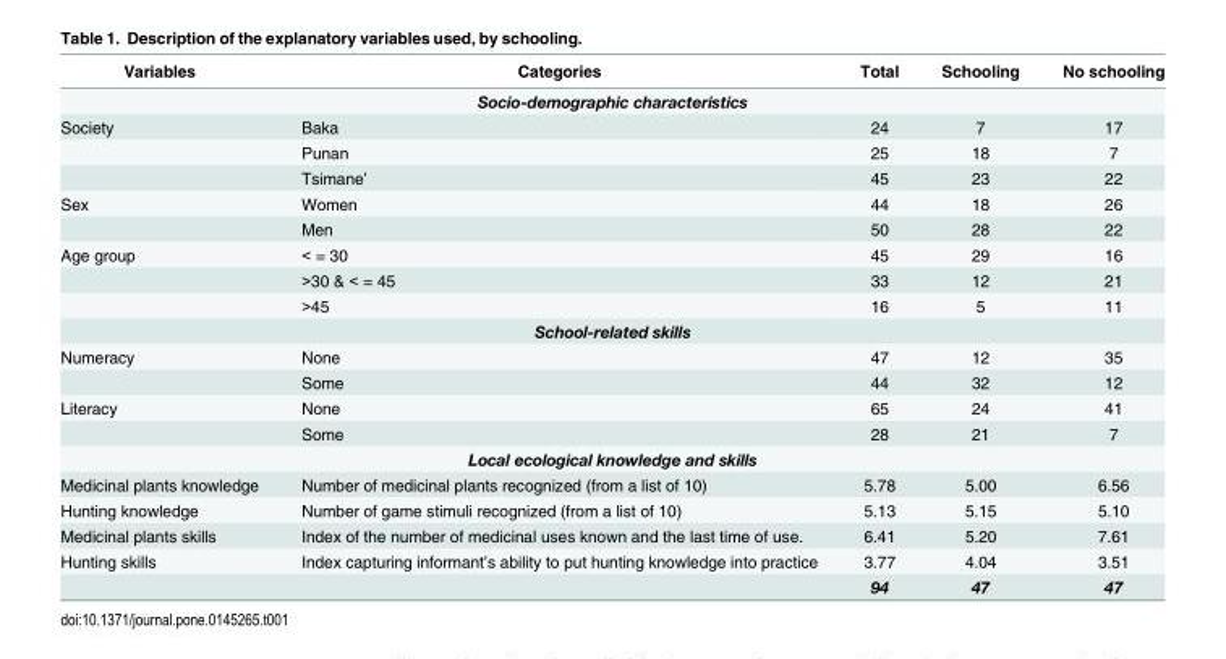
<table><thead><tr><td>Variables</td><td>Categories</td><td>Total</td><td>Schooling</td><td>No schooling</td></tr></thead><tbody><tr><td colspan="5">Socio-demographic characteristics</td></tr><tr><td rowspan="3">Society</td><td>Baka</td><td>24</td><td>7</td><td>17</td></tr><tr><td>Punan</td><td>25</td><td>18</td><td>7</td></tr><tr><td>Tsimane’</td><td>45</td><td>23</td><td>22</td></tr><tr><td rowspan="2">Sex</td><td>Women</td><td>44</td><td>18</td><td>26</td></tr><tr><td>Men</td><td>50</td><td>28</td><td>22</td></tr><tr><td rowspan="3">Age group</td><td>&lt; = 30</td><td>45</td><td>29</td><td>16</td></tr><tr><td>&gt;30 &amp; &lt; = 45</td><td>33</td><td>12</td><td>21</td></tr><tr><td>&gt;45</td><td>16</td><td>5</td><td>11</td></tr><tr><td colspan="5">School-related skills</td></tr><tr><td rowspan="2">Numeracy</td><td>None</td><td>47</td><td>12</td><td>35</td></tr><tr><td>Some</td><td>44</td><td>32</td><td>12</td></tr><tr><td rowspan="2">Literacy</td><td>None</td><td>65</td><td>24</td><td>41</td></tr><tr><td>Some</td><td>28</td><td>21</td><td>7</td></tr><tr><td colspan="5">Local ecological knowledge and skills</td></tr><tr><td>Medicinal plants knowledge</td><td>Number of medicinal plants recognized (from a list of 10)</td><td>5.78</td><td>5.00</td><td>6.56</td></tr><tr><td>Hunting knowledge</td><td>Number of game stimuli recognized (from a list of 10)</td><td>5.13</td><td>5.15</td><td>5.10</td></tr><tr><td>Medicinal plants skills</td><td>Index of the number of medicinal uses known and the last time of use.</td><td>6.41</td><td>5.20</td><td>7.61</td></tr><tr><td rowspan="2">Hunting skills</td><td>Index capturing informant’s ability to put hunting knowledge into practice</td><td>3.77</td><td>4.04</td><td>3.51</td></tr><tr><td></td><td>94</td><td>47</td><td>47</td></tr></tbody></table>